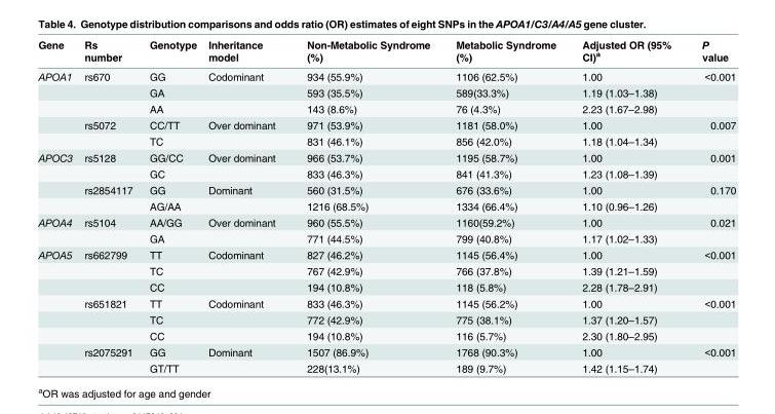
<table><thead><tr><td>Gene</td><td>Rs number</td><td>Genotype</td><td>Inheritance model</td><td>Non-Metabolic Syndrome (%)</td><td>Metabolic Syndrome (%)</td><td>Adjusted OR (95% CI)<sup>a</sup></td><td>P value</td></tr></thead><tbody><tr><td rowspan="5">APOA1</td><td>rs670</td><td>GG</td><td>Codominant</td><td>934 (55.9%)</td><td>1106 (62.5%)</td><td>1.00</td><td>&lt;0.001</td></tr><tr><td></td><td>GA</td><td></td><td>593 (35.5%)</td><td>589(33.3%)</td><td>1.19 (1.03–1.38)</td><td></td></tr><tr><td></td><td>AA</td><td></td><td>143 (8.6%)</td><td>76 (4.3%)</td><td>2.23 (1.67–2.98)</td><td></td></tr><tr><td>rs5072</td><td>CC/TT</td><td>Over dominant</td><td>971 (53.9%)</td><td>1181 (58.0%)</td><td>1.00</td><td>0.007</td></tr><tr><td></td><td>TC</td><td></td><td>831 (46.1%)</td><td>856 (42.0%)</td><td>1.18 (1.04–1.34)</td><td></td></tr><tr><td rowspan="4">APOC3</td><td>rs5128</td><td>GG/CC</td><td>Over dominant</td><td>966 (53.7%)</td><td>1195 (58.7%)</td><td>1.00</td><td>0.001</td></tr><tr><td></td><td>GC</td><td></td><td>833 (46.3%)</td><td>841 (41.3%)</td><td>1.23 (1.08–1.39)</td><td></td></tr><tr><td>rs2854117</td><td>GG</td><td>Dominant</td><td>560 (31.5%)</td><td>676 (33.6%)</td><td>1.00</td><td>0.170</td></tr><tr><td></td><td>AG/AA</td><td></td><td>1216 (68.5%)</td><td>1334 (66.4%)</td><td>1.10 (0.96–1.26)</td><td></td></tr><tr><td rowspan="2">APOA4</td><td>rs5104</td><td>AA/GG</td><td>Over dominant</td><td>960 (55.5%)</td><td>1160(59.2%)</td><td>1.00</td><td>0.021</td></tr><tr><td></td><td>GA</td><td></td><td>771 (44.5%)</td><td>799 (40.8%)</td><td>1.17 (1.02–1.33)</td><td></td></tr><tr><td rowspan="8">APOA5</td><td>rs662799</td><td>TT</td><td>Codominant</td><td>827 (46.2%)</td><td>1145 (56.4%)</td><td>1.00</td><td>&lt;0.001</td></tr><tr><td></td><td>TC</td><td></td><td>767 (42.9%)</td><td>766 (37.8%)</td><td>1.39 (1.21–1.59)</td><td></td></tr><tr><td></td><td>CC</td><td></td><td>194 (10.8%)</td><td>118 (5.8%)</td><td>2.28 (1.78–2.91)</td><td></td></tr><tr><td>rs651821</td><td>TT</td><td>Codominant</td><td>833 (46.3%)</td><td>1145 (56.2%)</td><td>1.00</td><td>&lt;0.001</td></tr><tr><td></td><td>TC</td><td></td><td>772 (42.9%)</td><td>775 (38.1%)</td><td>1.37 (1.20–1.57)</td><td></td></tr><tr><td></td><td>CC</td><td></td><td>194 (10.8%)</td><td>116 (5.7%)</td><td>2.30 (1.80–2.95)</td><td></td></tr><tr><td>rs2075291</td><td>GG</td><td>Dominant</td><td>1507 (86.9%)</td><td>1768 (90.3%)</td><td>1.00</td><td>&lt;0.001</td></tr><tr><td></td><td>GT/TT</td><td></td><td>228(13.1%)</td><td>189 (9.7%)</td><td>1.42 (1.15–1.74)</td><td></td></tr></tbody></table>